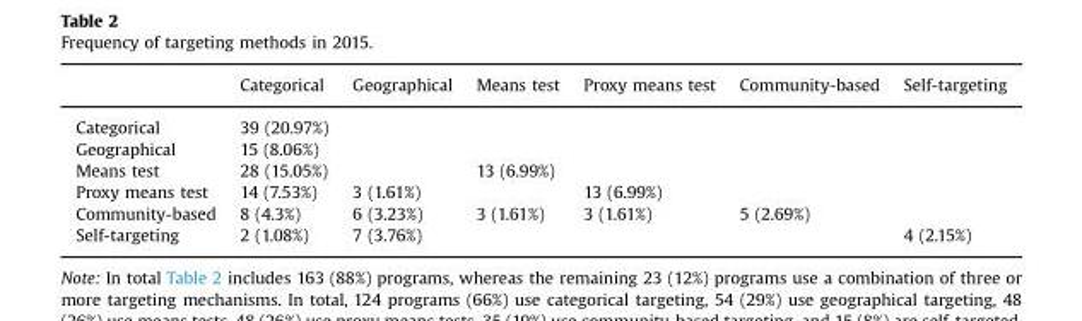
<table><thead><tr><td></td><td>Categorical</td><td>Geographical</td><td>Means test</td><td>Proxy means test</td><td>Community-based</td><td>Self-targeting</td></tr></thead><tbody><tr><td>Categorical</td><td>39 (20.97%)</td><td></td><td></td><td></td><td></td><td></td></tr><tr><td>Geographical</td><td>15 (8.06%)</td><td></td><td></td><td></td><td></td><td></td></tr><tr><td>Means test</td><td>28 (15.05%)</td><td></td><td>13 (6.99%)</td><td></td><td></td><td></td></tr><tr><td>Proxy means test</td><td>14 (7.53%)</td><td>3 (1.61%)</td><td></td><td>13 (6.99%)</td><td></td><td></td></tr><tr><td>Community-based</td><td>8 (4.3%)</td><td>6 (3.23%)</td><td>3 (1.61%)</td><td>3 (1.61%)</td><td>5 (2.69%)</td><td></td></tr><tr><td>Self-targeting</td><td>2 (1.08%)</td><td>7 (3.76%)</td><td></td><td></td><td></td><td>4 (2.15%)</td></tr></tbody></table>